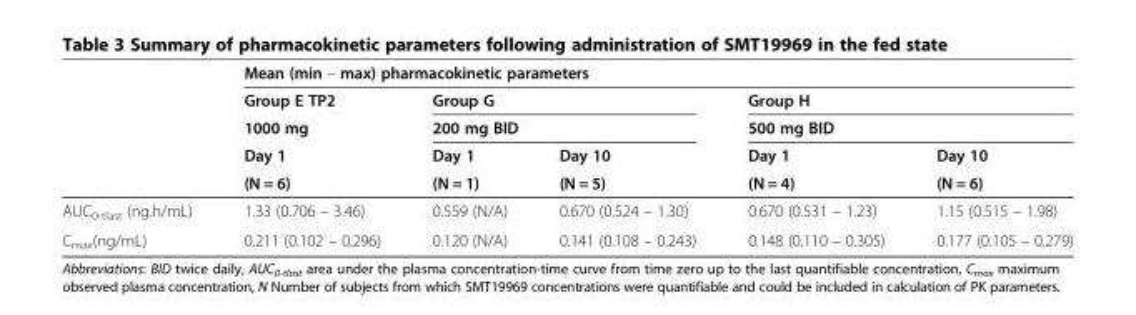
<table><thead><tr><td rowspan="5"></td><td colspan="5">Mean (min – max) pharmacokinetic parameters</td></tr><tr><td rowspan="4">Group E TP2 1000 mg Day 1 (N = 6)</td><td rowspan="2" colspan="2">Group G 200 mg BID</td><td rowspan="2" colspan="2">Group H 500 mg BID</td></tr><tr></tr><tr><td rowspan="2">Day 1 (N = 1)</td><td rowspan="2">Day 10 (N = 5)</td><td rowspan="2">Day 1 (N = 4)</td><td rowspan="2">Day 10 (N = 6)</td></tr><tr></tr></thead><tbody><tr><td>AUC<sub>0-tlast</sub> (ng.h/mL)</td><td>1.33 (0.706 – 3.46)</td><td>0.559 (N/A)</td><td>0.670 (0.524 – 1.30)</td><td>0.670 (0.531 – 1.23)</td><td>1.15 (0.515 – 1.98)</td></tr><tr><td>C<sub>max</sub>(ng/mL)</td><td>0.211 (0.102 – 0.296)</td><td>0.120 (N/A)</td><td>0.141 (0.108 – 0.243)</td><td>0.148 (0.110 – 0.305)</td><td>0.177 (0.105 – 0.279)</td></tr></tbody></table>